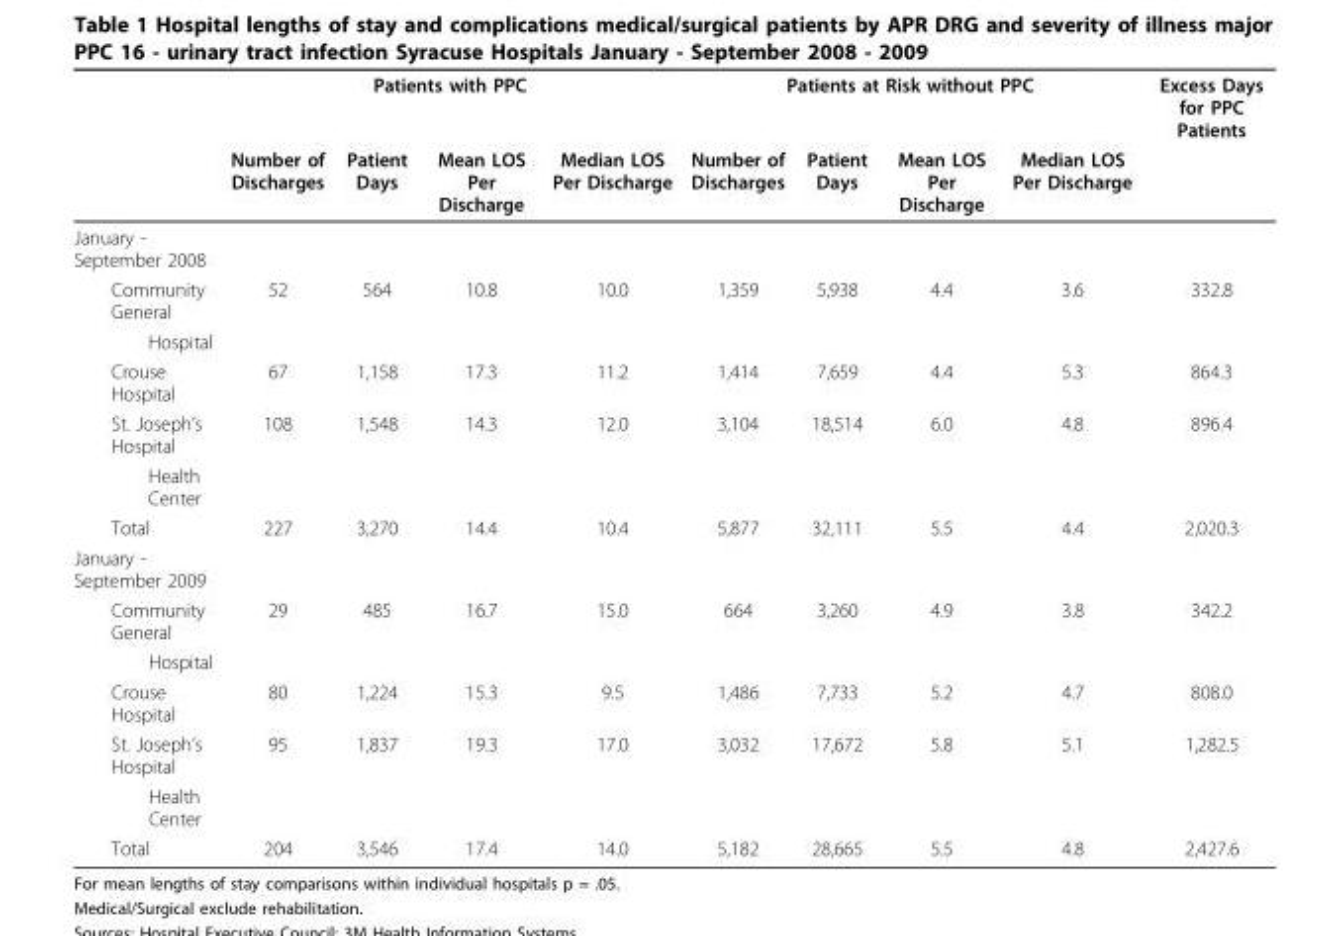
<table><thead><tr><td rowspan="2"></td><td colspan="4">Patients with PPC</td><td colspan="4">Patients at Risk without PPC</td><td rowspan="2">Excess Days for PPC Patients</td></tr><tr><td>Number of Discharges</td><td>Patient Days</td><td>Mean LOS Per Discharge</td><td>Median LOS Per Discharge</td><td>Number of Discharges</td><td>Patient Days</td><td>Mean LOS Per Discharge</td><td>Median LOS Per Discharge</td></tr></thead><tbody><tr><td colspan="10">January - September 2008</td></tr><tr><td>Community General</td><td>52</td><td>564</td><td>10.8</td><td>10.0</td><td>1,359</td><td>5,938</td><td>4.4</td><td>3.6</td><td>332.8</td></tr><tr><td colspan="10">Hospital</td></tr><tr><td>Crouse Hospital</td><td>67</td><td>1,158</td><td>17.3</td><td>11.2</td><td>1,414</td><td>7,659</td><td>4.4</td><td>5.3</td><td>864.3</td></tr><tr><td>St. Joseph’s Hospital</td><td>108</td><td>1,548</td><td>14.3</td><td>12.0</td><td>3,104</td><td>18,514</td><td>6.0</td><td>4.8</td><td>896.4</td></tr><tr><td colspan="10">Health Center</td></tr><tr><td>Total</td><td>227</td><td>3,270</td><td>14.4</td><td>10.4</td><td>5,877</td><td>32,111</td><td>5.5</td><td>4.4</td><td>2,020.3</td></tr><tr><td colspan="10">January - September 2009</td></tr><tr><td>Community General</td><td>29</td><td>485</td><td>16.7</td><td>15.0</td><td>664</td><td>3,260</td><td>4.9</td><td>3.8</td><td>342.2</td></tr><tr><td colspan="10">Hospital</td></tr><tr><td>Crouse Hospital</td><td>80</td><td>1,224</td><td>15.3</td><td>9.5</td><td>1,486</td><td>7,733</td><td>5.2</td><td>4.7</td><td>808.0</td></tr><tr><td>St. Joseph’s Hospital</td><td>95</td><td>1,837</td><td>19.3</td><td>17.0</td><td>3,032</td><td>17,672</td><td>5.8</td><td>5.1</td><td>1,282.5</td></tr><tr><td colspan="10">Health Center</td></tr><tr><td>Total</td><td>204</td><td>3,546</td><td>17.4</td><td>14.0</td><td>5,182</td><td>28,665</td><td>5.5</td><td>4.8</td><td>2,427.6</td></tr></tbody></table>